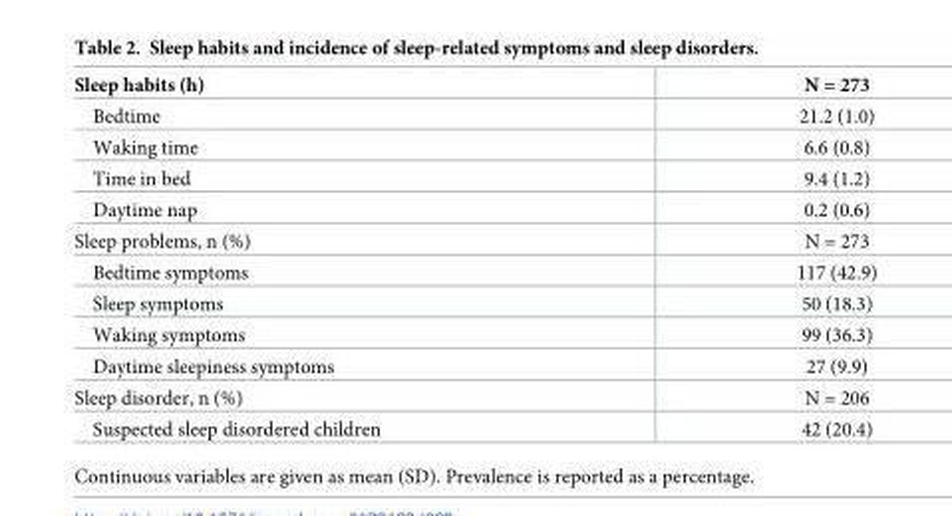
<table><thead><tr><td>Sleep habits (h)</td><td>N = 273</td></tr></thead><tbody><tr><td>Bedtime</td><td>21.2 (1.0)</td></tr><tr><td>Waking time</td><td>6.6 (0.8)</td></tr><tr><td>Time in bed</td><td>9.4 (1.2)</td></tr><tr><td>Daytime nap</td><td>0.2 (0.6)</td></tr><tr><td>Sleep problems, n (%)</td><td>N = 273</td></tr><tr><td>Bedtime symptoms</td><td>117 (42.9)</td></tr><tr><td>Sleep symptoms</td><td>50 (18.3)</td></tr><tr><td>Waking symptoms</td><td>99 (36.3)</td></tr><tr><td>Daytime sleepiness symptoms</td><td>27 (9.9)</td></tr><tr><td>Sleep disorder, n (%)</td><td>N = 206</td></tr><tr><td>Suspected sleep disordered children</td><td>42 (20.4)</td></tr></tbody></table>